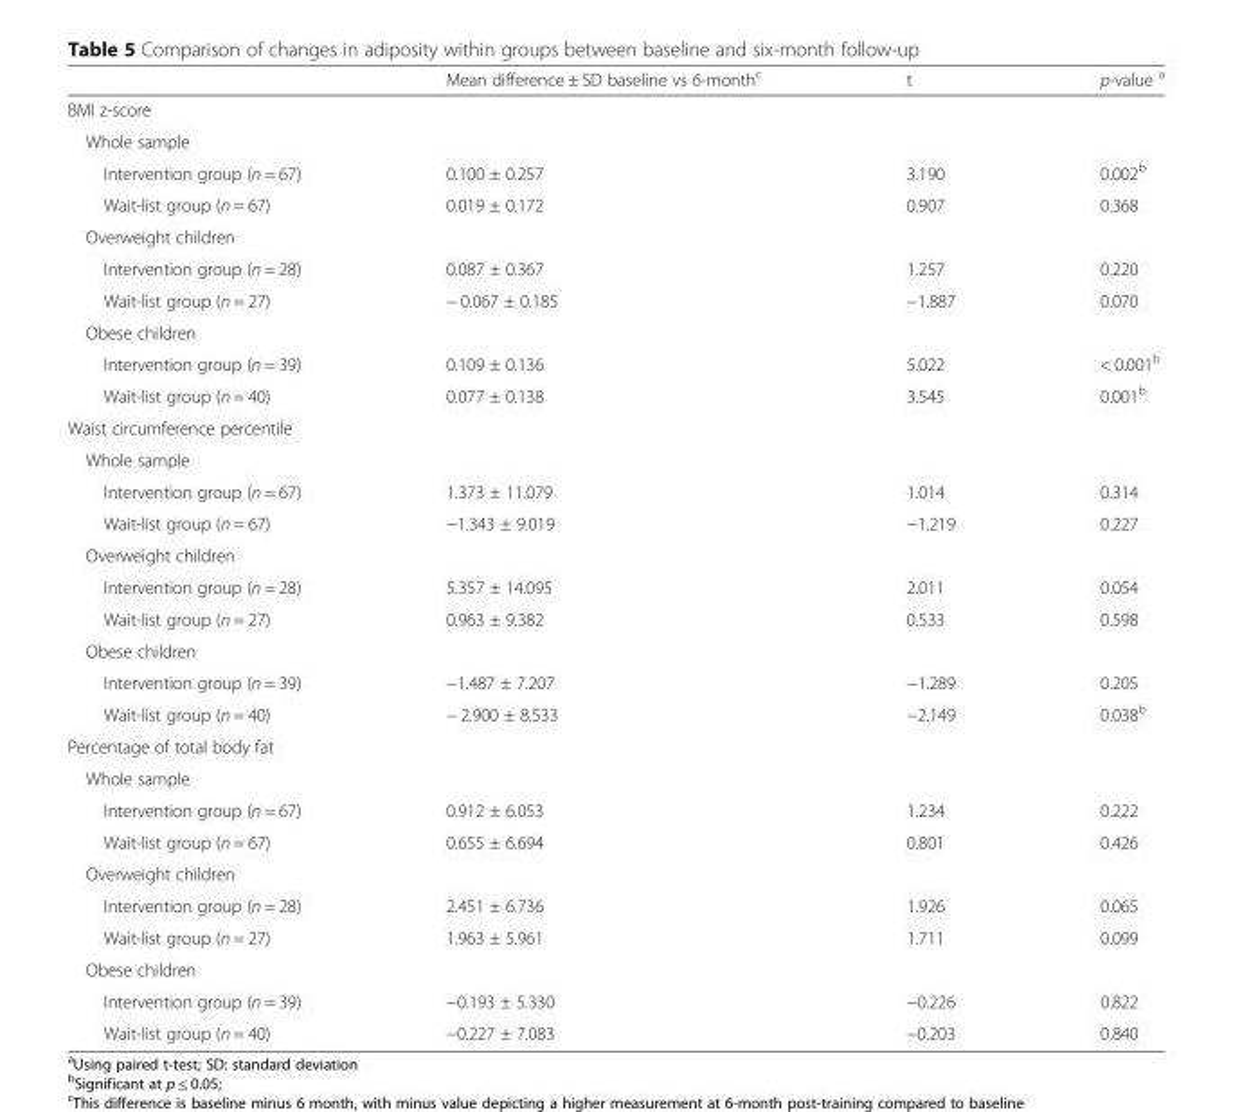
<table><thead><tr><td></td><td>Mean difference ± SD baseline vs 6-month<sup>c</sup></td><td>t</td><td>p-value <sup>a</sup></td></tr></thead><tbody><tr><td colspan="4">BMI z-score</td></tr><tr><td colspan="4">Whole sample</td></tr><tr><td>Intervention group (n = 67)</td><td>0.100 ± 0.257</td><td>3.190</td><td>0.002<sup>b</sup></td></tr><tr><td>Wait-list group (n = 67)</td><td>0.019 ± 0.172</td><td>0.907</td><td>0.368</td></tr><tr><td colspan="4">Overweight children</td></tr><tr><td>Intervention group (n = 28)</td><td>0.087 ± 0.367</td><td>1.257</td><td>0.220</td></tr><tr><td>Wait-list group (n = 27)</td><td>− 0.067 ± 0.185</td><td>−1.887</td><td>0.070</td></tr><tr><td colspan="4">Obese children</td></tr><tr><td>Intervention group (n = 39)</td><td>0.109 ± 0.136</td><td>5.022</td><td>&lt; 0.001<sup>b</sup></td></tr><tr><td>Wait-list group (n = 40)</td><td>0.077 ± 0.138</td><td>3.545</td><td>0.001<sup>b</sup></td></tr><tr><td colspan="4">Waist circumference percentile</td></tr><tr><td colspan="4">Whole sample</td></tr><tr><td>Intervention group (n = 67)</td><td>1.373 ± 11.079</td><td>1.014</td><td>0.314</td></tr><tr><td>Wait-list group (n = 67)</td><td>−1.343 ± 9.019</td><td>−1.219</td><td>0.227</td></tr><tr><td colspan="4">Overweight children</td></tr><tr><td>Intervention group (n = 28)</td><td>5.357 ± 14.095</td><td>2.011</td><td>0.054</td></tr><tr><td>Wait-list group (n = 27)</td><td>0.963 ± 9.382</td><td>0.533</td><td>0.598</td></tr><tr><td colspan="4">Obese children</td></tr><tr><td>Intervention group (n = 39)</td><td>−1.487 ± 7.207</td><td>−1.289</td><td>0.205</td></tr><tr><td>Wait-list group (n = 40)</td><td>− 2.900 ± 8.533</td><td>−2.149</td><td>0.038<sup>b</sup></td></tr><tr><td colspan="4">Percentage of total body fat</td></tr><tr><td colspan="4">Whole sample</td></tr><tr><td>Intervention group (n = 67)</td><td>0.912 ± 6.053</td><td>1.234</td><td>0.222</td></tr><tr><td>Wait-list group (n = 67)</td><td>0.655 ± 6.694</td><td>0.801</td><td>0.426</td></tr><tr><td colspan="4">Overweight children</td></tr><tr><td>Intervention group (n = 28)</td><td>2.451 ± 6.736</td><td>1.926</td><td>0.065</td></tr><tr><td>Wait-list group (n = 27)</td><td>1.963 ± 5.961</td><td>1.711</td><td>0.099</td></tr><tr><td colspan="4">Obese children</td></tr><tr><td>Intervention group (n = 39)</td><td>−0.193 ± 5.330</td><td>−0.226</td><td>0.822</td></tr><tr><td>Wait-list group (n = 40)</td><td>−0.227 ± 7.083</td><td>−0.203</td><td>0.840</td></tr></tbody></table>